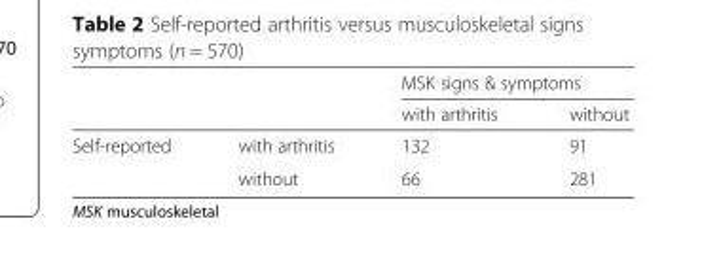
<table><thead><tr><td rowspan="2"></td><td rowspan="2"></td><td colspan="2">MSK signs &amp; symptoms</td></tr><tr><td>with arthritis</td><td>without</td></tr></thead><tbody><tr><td rowspan="2">Self-reported</td><td>with arthritis</td><td>132</td><td>91</td></tr><tr><td>without</td><td>66</td><td>281</td></tr></tbody></table>